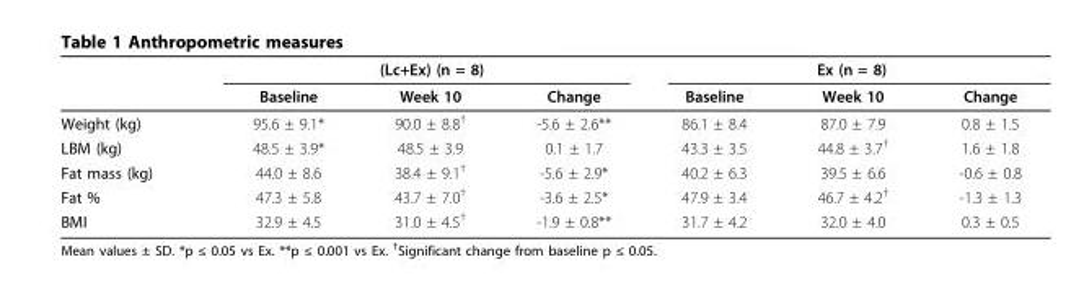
<table><thead><tr><td rowspan="2"></td><td colspan="3">(Lc+Ex) (n = 8)</td><td colspan="3">Ex (n = 8)</td></tr><tr><td>Baseline</td><td>Week 10</td><td>Change</td><td>Baseline</td><td>Week 10</td><td>Change</td></tr></thead><tbody><tr><td>Weight (kg)</td><td>95.6 ± 9.1*</td><td>90.0 ± 8.8<sup>†</sup></td><td>-5.6 ± 2.6**</td><td>86.1 ± 8.4</td><td>87.0 ± 7.9</td><td>0.8 ± 1.5</td></tr><tr><td>LBM (kg)</td><td>48.5 ± 3.9*</td><td>48.5 ± 3.9</td><td>0.1 ± 1.7</td><td>43.3 ± 3.5</td><td>44.8 ± 3.7<sup>†</sup></td><td>1.6 ± 1.8</td></tr><tr><td>Fat mass (kg)</td><td>44.0 ± 8.6</td><td>38.4 ± 9.1<sup>†</sup></td><td>-5.6 ± 2.9*</td><td>40.2 ± 6.3</td><td>39.5 ± 6.6</td><td>-0.6 ± 0.8</td></tr><tr><td>Fat %</td><td>47.3 ± 5.8</td><td>43.7 ± 7.0<sup>†</sup></td><td>-3.6 ± 2.5*</td><td>47.9 ± 3.4</td><td>46.7 ± 4.2<sup>†</sup></td><td>-1.3 ± 1.3</td></tr><tr><td>BMI</td><td>32.9 ± 4.5</td><td>31.0 ± 4.5<sup>†</sup></td><td>-1.9 ± 0.8**</td><td>31.7 ± 4.2</td><td>32.0 ± 4.0</td><td>0.3 ± 0.5</td></tr></tbody></table>